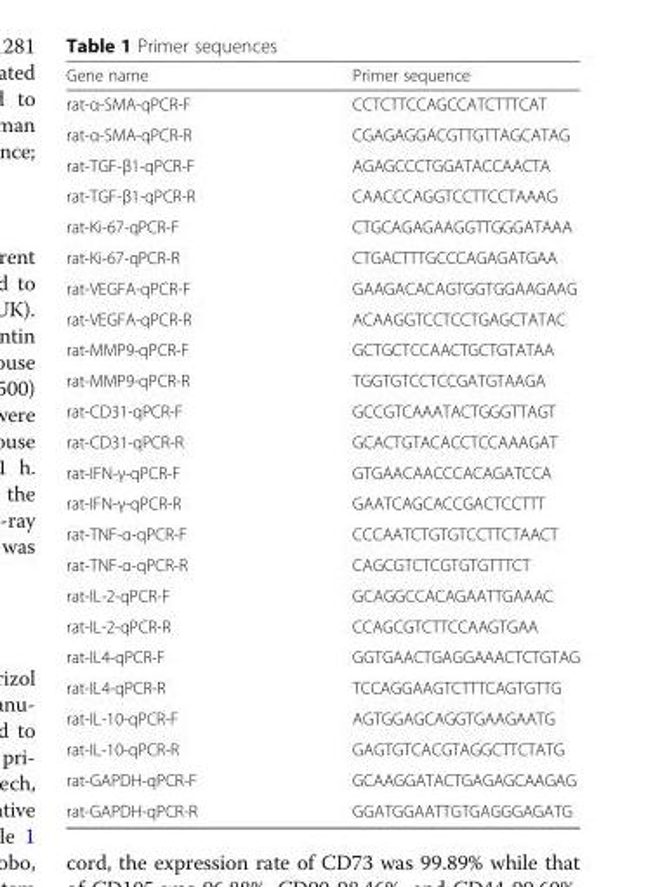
<table><thead><tr><td>Gene name</td><td>Primer sequence</td></tr></thead><tbody><tr><td>rat-α-SMA-qPCR-F</td><td>CCTCTTCCAGCCATCTTTCAT</td></tr><tr><td>rat-α-SMA-qPCR-R</td><td>CGAGAGGACGTTGTTAGCATAG</td></tr><tr><td>rat-TGF-β1-qPCR-F</td><td>AGAGCCCTGGATACCAACTA</td></tr><tr><td>rat-TGF-β1-qPCR-R</td><td>CAACCCAGGTCCTTCCTAAAG</td></tr><tr><td>rat-Ki-67-qPCR-F</td><td>CTGCAGAGAAGGTTGGGATAAA</td></tr><tr><td>rat-Ki-67-qPCR-R</td><td>CTGACTTTGCCCAGAGATGAA</td></tr><tr><td>rat-VEGFA-qPCR-F</td><td>GAAGACACAGTGGTGGAAGAAG</td></tr><tr><td>rat-VEGFA-qPCR-R</td><td>ACAAGGTCCTCCTGAGCTATAC</td></tr><tr><td>rat-MMP9-qPCR-F</td><td>GCTGCTCCAACTGCTGTATAA</td></tr><tr><td>rat-MMP9-qPCR-R</td><td>TGGTGTCCTCCGATGTAAGA</td></tr><tr><td>rat-CD31-qPCR-F</td><td>GCCGTCAAATACTGGGTTAGT</td></tr><tr><td>rat-CD31-qPCR-R</td><td>GCACTGTACACCTCCAAAGAT</td></tr><tr><td>rat-IFN-γ-qPCR-F</td><td>GTGAACAACCCACAGATCCA</td></tr><tr><td>rat-IFN-γ-qPCR-R</td><td>GAATCAGCACCGACTCCTTT</td></tr><tr><td>rat-TNF-α-qPCR-F</td><td>CCCAATCTGTGTCCTTCTAACT</td></tr><tr><td>rat-TNF-α-qPCR-R</td><td>CAGCGTCTCGTGTGTTTCT</td></tr><tr><td>rat-IL-2-qPCR-F</td><td>GCAGGCCACAGAATTGAAAC</td></tr><tr><td>rat-IL-2-qPCR-R</td><td>CCAGCGTCTTCCAAGTGAA</td></tr><tr><td>rat-IL4-qPCR-F</td><td>GGTGAACTGAGGAAACTCTGTAG</td></tr><tr><td>rat-IL4-qPCR-R</td><td>TCCAGGAAGTCTTTCAGTGTTG</td></tr><tr><td>rat-IL-10-qPCR-F</td><td>AGTGGAGCAGGTGAAGAATG</td></tr><tr><td>rat-IL-10-qPCR-R</td><td>GAGTGTCACGTAGGCTTCTATG</td></tr><tr><td>rat-GAPDH-qPCR-F</td><td>GCAAGGATACTGAGAGCAAGAG</td></tr><tr><td>rat-GAPDH-qPCR-R</td><td>GGATGGAATTGTGAGGGAGATG</td></tr></tbody></table>